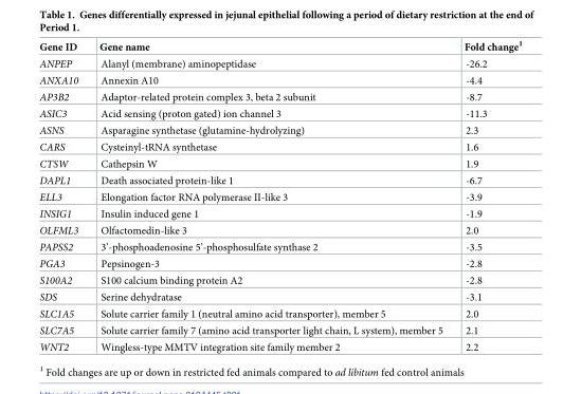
<table><thead><tr><td>Gene ID</td><td>Gene name</td><td>Fold change<sup>1</sup></td></tr></thead><tbody><tr><td>ANPEP</td><td>Alanyl (membrane) aminopeptidase</td><td>-26.2</td></tr><tr><td>ANXA10</td><td>Annexin A10</td><td>-4.4</td></tr><tr><td>AP3B2</td><td>Adaptor-related protein complex 3, beta 2 subunit</td><td>-8.7</td></tr><tr><td>ASIC3</td><td>Acid sensing (proton gated) ion channel 3</td><td>-11.3</td></tr><tr><td>ASNS</td><td>Asparagine synthetase (glutamine-hydrolyzing)</td><td>2.3</td></tr><tr><td>CARS</td><td>Cysteinyl-tRNA synthetase</td><td>1.6</td></tr><tr><td>CTSW</td><td>Cathepsin W</td><td>1.9</td></tr><tr><td>DAPL1</td><td>Death associated protein-like 1</td><td>-6.7</td></tr><tr><td>ELL3</td><td>Elongation factor RNA polymerase II-like 3</td><td>-3.9</td></tr><tr><td>INSIG1</td><td>Insulin induced gene 1</td><td>-1.9</td></tr><tr><td>OLFML3</td><td>Olfactomedin-like 3</td><td>2.0</td></tr><tr><td>PAPSS2</td><td>3’-phosphoadenosine 5’-phosphosulfate synthase 2</td><td>-3.5</td></tr><tr><td>PGA3</td><td>Pepsinogen-3</td><td>-2.8</td></tr><tr><td>S100A2</td><td>S100 calcium binding protein A2</td><td>-2.8</td></tr><tr><td>SDS</td><td>Serine dehydratase</td><td>-3.1</td></tr><tr><td>SLC1A5</td><td>Solute carrier family 1 (neutral amino acid transporter), member 5</td><td>2.0</td></tr><tr><td>SLC7A5</td><td>Solute carrier family 7 (amino acid transporter light chain, L system), member 5</td><td>2.1</td></tr><tr><td>WNT2</td><td>Wingless-type MMTV integration site family member 2</td><td>2.2</td></tr></tbody></table>